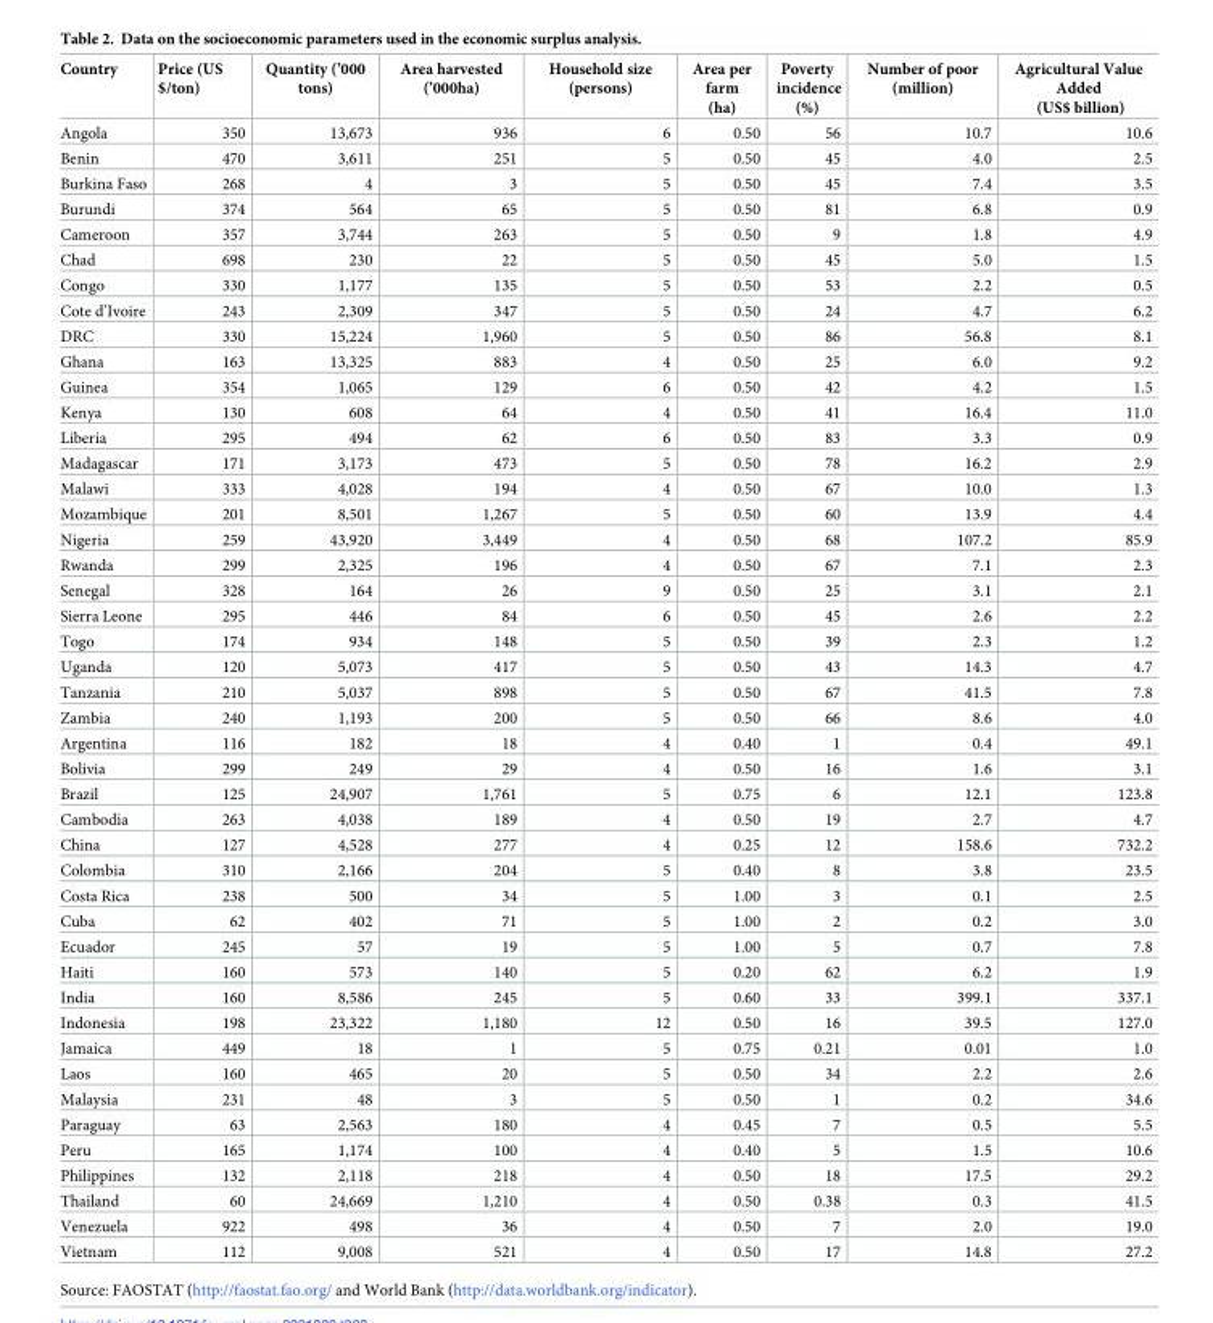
<table><thead><tr><td>Country</td><td>Price (US $/ton)</td><td>Quantity (’000 tons)</td><td>Area harvested (’000ha)</td><td>Household size (persons)</td><td>Area per farm (ha)</td><td>Poverty incidence (%)</td><td>Number of poor (million)</td><td>Agricultural Value Added (US$ billion)</td></tr></thead><tbody><tr><td>Angola</td><td>350</td><td>13,673</td><td>936</td><td>6</td><td>0.50</td><td>56</td><td>10.7</td><td>10.6</td></tr><tr><td>Benin</td><td>470</td><td>3,611</td><td>251</td><td>5</td><td>0.50</td><td>45</td><td>4.0</td><td>2.5</td></tr><tr><td>Burkina Faso</td><td>268</td><td>4</td><td>3</td><td>5</td><td>0.50</td><td>45</td><td>7.4</td><td>3.5</td></tr><tr><td>Burundi</td><td>374</td><td>564</td><td>65</td><td>5</td><td>0.50</td><td>81</td><td>6.8</td><td>0.9</td></tr><tr><td>Cameroon</td><td>357</td><td>3,744</td><td>263</td><td>5</td><td>0.50</td><td>9</td><td>1.8</td><td>4.9</td></tr><tr><td>Chad</td><td>698</td><td>230</td><td>22</td><td>5</td><td>0.50</td><td>45</td><td>5.0</td><td>1.5</td></tr><tr><td>Congo</td><td>330</td><td>1,177</td><td>135</td><td>5</td><td>0.50</td><td>53</td><td>2.2</td><td>0.5</td></tr><tr><td>Cote d’Ivoire</td><td>243</td><td>2,309</td><td>347</td><td>5</td><td>0.50</td><td>24</td><td>4.7</td><td>6.2</td></tr><tr><td>DRC</td><td>330</td><td>15,224</td><td>1,960</td><td>5</td><td>0.50</td><td>86</td><td>56.8</td><td>8.1</td></tr><tr><td>Ghana</td><td>163</td><td>13,325</td><td>883</td><td>4</td><td>0.50</td><td>25</td><td>6.0</td><td>9.2</td></tr><tr><td>Guinea</td><td>354</td><td>1,065</td><td>129</td><td>6</td><td>0.50</td><td>42</td><td>4.2</td><td>1.5</td></tr><tr><td>Kenya</td><td>130</td><td>608</td><td>64</td><td>4</td><td>0.50</td><td>41</td><td>16.4</td><td>11.0</td></tr><tr><td>Liberia</td><td>295</td><td>494</td><td>62</td><td>6</td><td>0.50</td><td>83</td><td>3.3</td><td>0.9</td></tr><tr><td>Madagascar</td><td>171</td><td>3,173</td><td>473</td><td>5</td><td>0.50</td><td>78</td><td>16.2</td><td>2.9</td></tr><tr><td>Malawi</td><td>333</td><td>4,028</td><td>194</td><td>4</td><td>0.50</td><td>67</td><td>10.0</td><td>1.3</td></tr><tr><td>Mozambique</td><td>201</td><td>8,501</td><td>1,267</td><td>5</td><td>0.50</td><td>60</td><td>13.9</td><td>4.4</td></tr><tr><td>Nigeria</td><td>259</td><td>43,920</td><td>3,449</td><td>4</td><td>0.50</td><td>68</td><td>107.2</td><td>85.9</td></tr><tr><td>Rwanda</td><td>299</td><td>2,325</td><td>196</td><td>4</td><td>0.50</td><td>67</td><td>7.1</td><td>2.3</td></tr><tr><td>Senegal</td><td>328</td><td>164</td><td>26</td><td>9</td><td>0.50</td><td>25</td><td>3.1</td><td>2.1</td></tr><tr><td>Sierra Leone</td><td>295</td><td>446</td><td>84</td><td>6</td><td>0.50</td><td>45</td><td>2.6</td><td>2.2</td></tr><tr><td>Togo</td><td>174</td><td>934</td><td>148</td><td>5</td><td>0.50</td><td>39</td><td>2.3</td><td>1.2</td></tr><tr><td>Uganda</td><td>120</td><td>5,073</td><td>417</td><td>5</td><td>0.50</td><td>43</td><td>14.3</td><td>4.7</td></tr><tr><td>Tanzania</td><td>210</td><td>5,037</td><td>898</td><td>5</td><td>0.50</td><td>67</td><td>41.5</td><td>7.8</td></tr><tr><td>Zambia</td><td>240</td><td>1,193</td><td>200</td><td>5</td><td>0.50</td><td>66</td><td>8.6</td><td>4.0</td></tr><tr><td>Argentina</td><td>116</td><td>182</td><td>18</td><td>4</td><td>0.40</td><td>1</td><td>0.4</td><td>49.1</td></tr><tr><td>Bolivia</td><td>299</td><td>249</td><td>29</td><td>4</td><td>0.50</td><td>16</td><td>1.6</td><td>3.1</td></tr><tr><td>Brazil</td><td>125</td><td>24,907</td><td>1,761</td><td>5</td><td>0.75</td><td>6</td><td>12.1</td><td>123.8</td></tr><tr><td>Cambodia</td><td>263</td><td>4,038</td><td>189</td><td>4</td><td>0.50</td><td>19</td><td>2.7</td><td>4.7</td></tr><tr><td>China</td><td>127</td><td>4,528</td><td>277</td><td>4</td><td>0.25</td><td>12</td><td>158.6</td><td>732.2</td></tr><tr><td>Colombia</td><td>310</td><td>2,166</td><td>204</td><td>5</td><td>0.40</td><td>8</td><td>3.8</td><td>23.5</td></tr><tr><td>Costa Rica</td><td>238</td><td>500</td><td>34</td><td>5</td><td>1.00</td><td>3</td><td>0.1</td><td>2.5</td></tr><tr><td>Cuba</td><td>62</td><td>402</td><td>71</td><td>5</td><td>1.00</td><td>2</td><td>0.2</td><td>3.0</td></tr><tr><td>Ecuador</td><td>245</td><td>57</td><td>19</td><td>5</td><td>1.00</td><td>5</td><td>0.7</td><td>7.8</td></tr><tr><td>Haiti</td><td>160</td><td>573</td><td>140</td><td>5</td><td>0.20</td><td>62</td><td>6.2</td><td>1.9</td></tr><tr><td>India</td><td>160</td><td>8,586</td><td>245</td><td>5</td><td>0.60</td><td>33</td><td>399.1</td><td>337.1</td></tr><tr><td>Indonesia</td><td>198</td><td>23,322</td><td>1,180</td><td>12</td><td>0.50</td><td>16</td><td>39.5</td><td>127.0</td></tr><tr><td>Jamaica</td><td>449</td><td>18</td><td>1</td><td>5</td><td>0.75</td><td>0.21</td><td>0.01</td><td>1.0</td></tr><tr><td>Laos</td><td>160</td><td>465</td><td>20</td><td>5</td><td>0.50</td><td>34</td><td>2.2</td><td>2.6</td></tr><tr><td>Malaysia</td><td>231</td><td>48</td><td>3</td><td>5</td><td>0.50</td><td>1</td><td>0.2</td><td>34.6</td></tr><tr><td>Paraguay</td><td>63</td><td>2,563</td><td>180</td><td>4</td><td>0.45</td><td>7</td><td>0.5</td><td>5.5</td></tr><tr><td>Peru</td><td>165</td><td>1,174</td><td>100</td><td>4</td><td>0.40</td><td>5</td><td>1.5</td><td>10.6</td></tr><tr><td>Philippines</td><td>132</td><td>2,118</td><td>218</td><td>4</td><td>0.50</td><td>18</td><td>17.5</td><td>29.2</td></tr><tr><td>Thailand</td><td>60</td><td>24,669</td><td>1,210</td><td>4</td><td>0.50</td><td>0.38</td><td>0.3</td><td>41.5</td></tr><tr><td>Venezuela</td><td>922</td><td>498</td><td>36</td><td>4</td><td>0.50</td><td>7</td><td>2.0</td><td>19.0</td></tr><tr><td>Vietnam</td><td>112</td><td>9,008</td><td>521</td><td>4</td><td>0.50</td><td>17</td><td>14.8</td><td>27.2</td></tr></tbody></table>